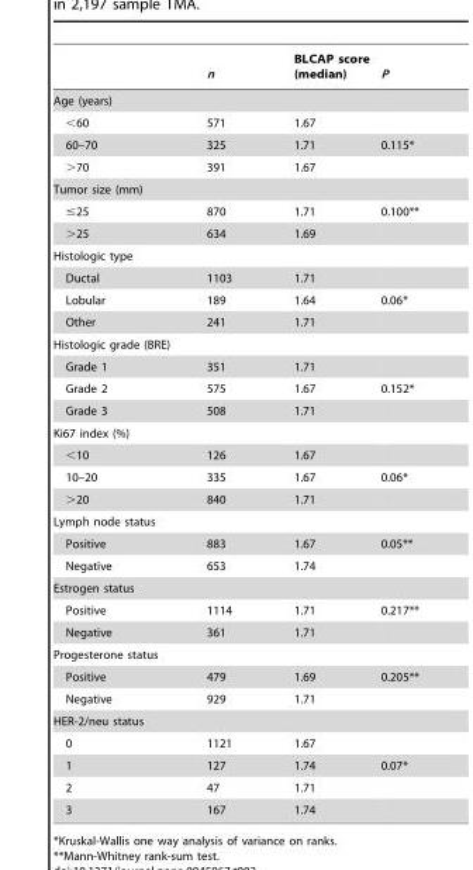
<table><thead><tr><td></td><td>n</td><td>BLCAP score (median)</td><td>P</td></tr></thead><tbody><tr><td colspan="4">Age (years)</td></tr><tr><td>&lt;60</td><td>571</td><td>1.67</td><td></td></tr><tr><td>60–70</td><td>325</td><td>1.71</td><td>0.115*</td></tr><tr><td>&gt;70</td><td>391</td><td>1.67</td><td></td></tr><tr><td colspan="4">Tumor size (mm)</td></tr><tr><td>≤25</td><td>870</td><td>1.71</td><td>0.100**</td></tr><tr><td>&gt;25</td><td>634</td><td>1.69</td><td></td></tr><tr><td colspan="4">Histologic type</td></tr><tr><td>Ductal</td><td>1103</td><td>1.71</td><td></td></tr><tr><td>Lobular</td><td>189</td><td>1.64</td><td>0.06*</td></tr><tr><td>Other</td><td>241</td><td>1.71</td><td></td></tr><tr><td colspan="4">Histologic grade (BRE)</td></tr><tr><td>Grade 1</td><td>351</td><td>1.71</td><td></td></tr><tr><td>Grade 2</td><td>575</td><td>1.67</td><td>0.152*</td></tr><tr><td>Grade 3</td><td>508</td><td>1.71</td><td></td></tr><tr><td colspan="4">Ki67 index (%)</td></tr><tr><td>&lt;10</td><td>126</td><td>1.67</td><td></td></tr><tr><td>10–20</td><td>335</td><td>1.67</td><td>0.06*</td></tr><tr><td>&gt;20</td><td>840</td><td>1.71</td><td></td></tr><tr><td colspan="4">Lymph node status</td></tr><tr><td>Positive</td><td>883</td><td>1.67</td><td>0.05**</td></tr><tr><td>Negative</td><td>653</td><td>1.74</td><td></td></tr><tr><td colspan="4">Estrogen status</td></tr><tr><td>Positive</td><td>1114</td><td>1.71</td><td>0.217**</td></tr><tr><td>Negative</td><td>361</td><td>1.71</td><td></td></tr><tr><td colspan="4">Progesterone status</td></tr><tr><td>Positive</td><td>479</td><td>1.69</td><td>0.205**</td></tr><tr><td>Negative</td><td>929</td><td>1.71</td><td></td></tr><tr><td colspan="4">HER-2/neu status</td></tr><tr><td>0</td><td>1121</td><td>1.67</td><td></td></tr><tr><td>1</td><td>127</td><td>1.74</td><td>0.07*</td></tr><tr><td>2</td><td>47</td><td>1.71</td><td></td></tr><tr><td>3</td><td>167</td><td>1.74</td><td></td></tr></tbody></table>